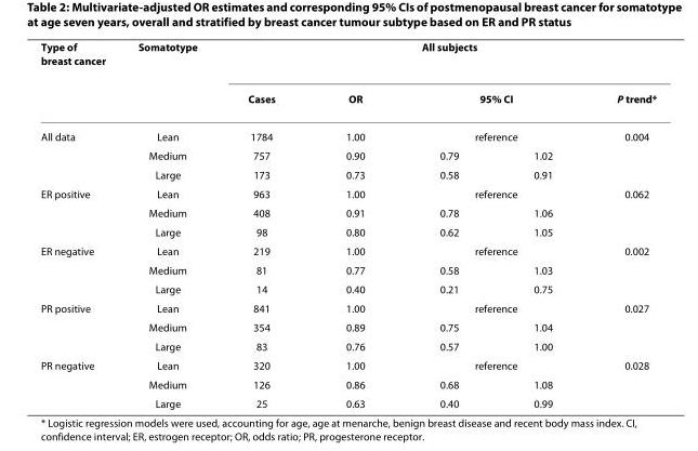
<table><thead><tr><td rowspan="4">Type of breast cancer All data</td><td rowspan="4">Somatotype Lean Medium</td><td colspan="5">All subjects</td></tr><tr><td rowspan="3">Cases 1784 757</td><td rowspan="3">OR 1.00 0.90</td><td rowspan="2" colspan="2">95% CI reference</td><td rowspan="3">P trend* 0.004</td></tr><tr></tr><tr><td>0.79</td><td>1.02</td></tr></thead><tbody><tr><td></td><td>Large</td><td>173</td><td>0.73</td><td>0.58</td><td>0.91</td><td></td></tr><tr><td rowspan="3">ER positive</td><td>Lean</td><td>963</td><td>1.00</td><td colspan="2">reference</td><td>0.062</td></tr><tr><td>Medium</td><td>408</td><td>0.91</td><td>0.78</td><td>1.06</td><td></td></tr><tr><td>Large</td><td>98</td><td>0.80</td><td>0.62</td><td>1.05</td><td></td></tr><tr><td rowspan="3">ER negative</td><td>Lean</td><td>219</td><td>1.00</td><td colspan="2">reference</td><td>0.002</td></tr><tr><td>Medium</td><td>81</td><td>0.77</td><td>0.58</td><td>1.03</td><td></td></tr><tr><td>Large</td><td>14</td><td>0.40</td><td>0.21</td><td>0.75</td><td></td></tr><tr><td rowspan="3">PR positive</td><td>Lean</td><td>841</td><td>1.00</td><td colspan="2">reference</td><td>0.027</td></tr><tr><td>Medium</td><td>354</td><td>0.89</td><td>0.75</td><td>1.04</td><td></td></tr><tr><td>Large</td><td>83</td><td>0.76</td><td>0.57</td><td>1.00</td><td></td></tr><tr><td rowspan="3">PR negative</td><td>Lean</td><td>320</td><td>1.00</td><td colspan="2">reference</td><td>0.028</td></tr><tr><td>Medium</td><td>126</td><td>0.86</td><td>0.68</td><td>1.08</td><td></td></tr><tr><td>Large</td><td>25</td><td>0.63</td><td>0.40</td><td>0.99</td><td></td></tr></tbody></table>